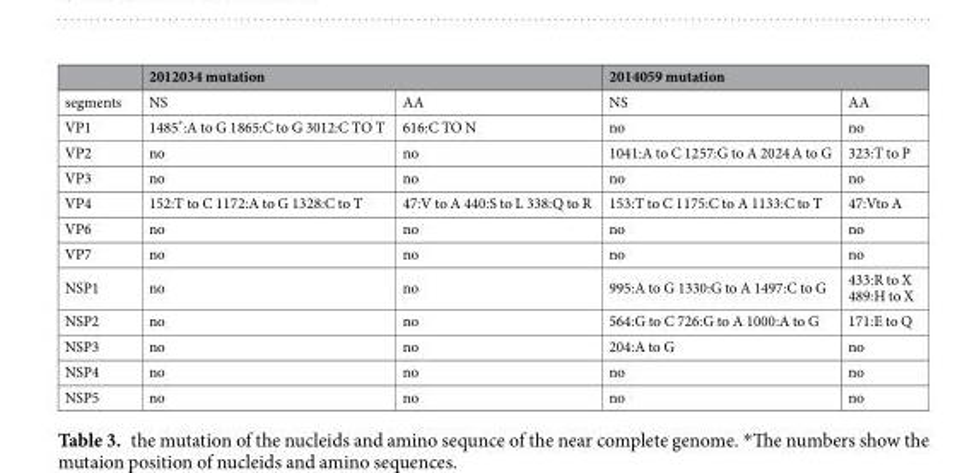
<table><thead><tr><td rowspan="2">segments</td><td colspan="2">2012034 mutation</td><td colspan="2">2014059 mutation</td></tr><tr><td>NS</td><td>AA</td><td>NS</td><td>AA</td></tr></thead><tbody><tr><td>VP1</td><td>1485*:A to G 1865:C to G 3012:C TO T</td><td>616:C TO N</td><td>no</td><td>no</td></tr><tr><td>VP2</td><td>no</td><td>no</td><td>1041:A to C 1257:G to A 2024 A to G</td><td>323:T to P</td></tr><tr><td>VP3</td><td>no</td><td>no</td><td>no</td><td>no</td></tr><tr><td>VP4</td><td>152:T to C 1172:A to G 1328:C to T</td><td>47:V to A 440:S to L 338:Q to R</td><td>153:T to C 1175:C to A 1133:C to T</td><td>47:Vto A</td></tr><tr><td>VP6</td><td>no</td><td>no</td><td>no</td><td>no</td></tr><tr><td>VP7</td><td>no</td><td>no</td><td>no</td><td>no</td></tr><tr><td>NSP1</td><td>no</td><td>no</td><td>995:A to G 1330:G to A 1497:C to G</td><td>433:R to X 489:H to X</td></tr><tr><td>NSP2</td><td>no</td><td>no</td><td>564:G to C 726:G to A 1000:A to G</td><td>171:E to Q</td></tr><tr><td>NSP3</td><td>no</td><td>no</td><td>204:A to G</td><td>no</td></tr><tr><td>NSP4</td><td>no</td><td>no</td><td>no</td><td>no</td></tr><tr><td>NSP5</td><td>no</td><td>no</td><td>no</td><td>no</td></tr></tbody></table>